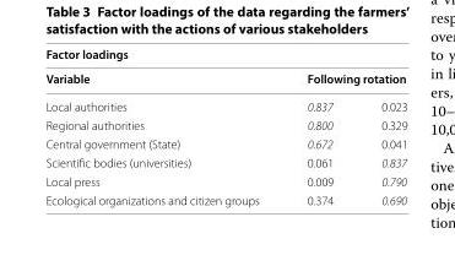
<table><thead><tr><td colspan="3">Factor loadings</td></tr><tr><td rowspan="2">Variable Local authorities</td><td colspan="2">Following rotation</td></tr><tr><td>0.837</td><td>0.023</td></tr></thead><tbody><tr><td>Regional authorities</td><td>0.800</td><td>0.329</td></tr><tr><td>Central government (State)</td><td>0.672</td><td>0.041</td></tr><tr><td>Scientific bodies (universities)</td><td>0.061</td><td>0.837</td></tr><tr><td>Local press</td><td>0.009</td><td>0.790</td></tr><tr><td>Ecological organizations and citizen groups</td><td>0.374</td><td>0.690</td></tr></tbody></table>